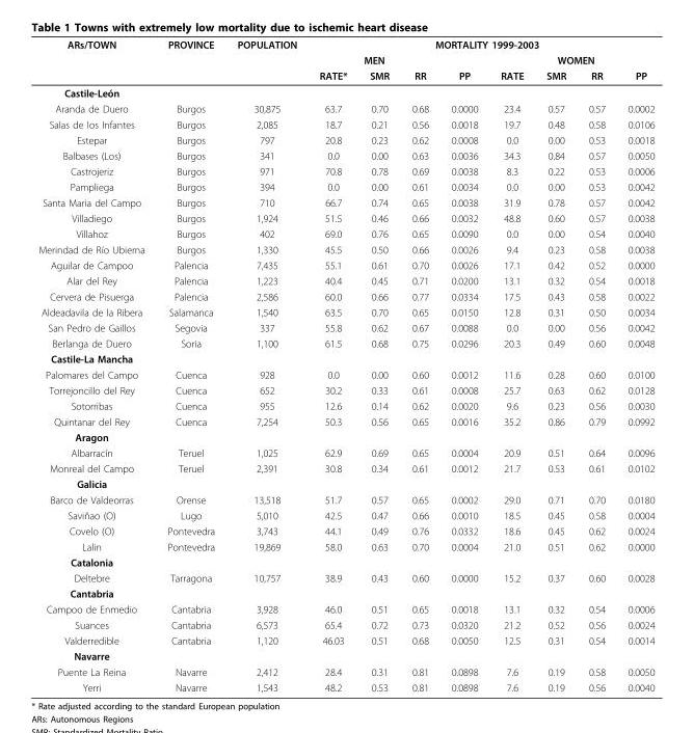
<table><thead><tr><td rowspan="3">ARs/TOWN</td><td rowspan="3">PROVINCE</td><td rowspan="3">POPULATION</td><td colspan="8">MORTALITY 1999-2003</td></tr><tr><td colspan="3">MEN</td><td rowspan="2">PP</td><td rowspan="2">RATE</td><td colspan="2">WOMEN</td><td rowspan="2">PP</td></tr><tr><td>RATE*</td><td>SMR</td><td>RR</td><td>SMR</td><td>RR</td></tr></thead><tbody><tr><td colspan="11">Castile-León</td></tr><tr><td>Aranda de Duero</td><td>Burgos</td><td>30,875</td><td>63.7</td><td>0.70</td><td>0.68</td><td>0.0000</td><td>23.4</td><td>0.57</td><td>0.57</td><td>0.0002</td></tr><tr><td>Salas de los Infantes</td><td>Burgos</td><td>2,085</td><td>18.7</td><td>0.21</td><td>0.56</td><td>0.0018</td><td>19.7</td><td>0.48</td><td>0.58</td><td>0.0106</td></tr><tr><td>Estepar</td><td>Burgos</td><td>797</td><td>20.8</td><td>0.23</td><td>0.62</td><td>0.0008</td><td>0.0</td><td>0.00</td><td>0.53</td><td>0.0018</td></tr><tr><td>Balbases (Los)</td><td>Burgos</td><td>341</td><td>0.0</td><td>0.00</td><td>0.63</td><td>0.0036</td><td>34.3</td><td>0.84</td><td>0.57</td><td>0.0050</td></tr><tr><td>Castrojeriz</td><td>Burgos</td><td>971</td><td>70.8</td><td>0.78</td><td>0.69</td><td>0.0038</td><td>8.3</td><td>0.22</td><td>0.53</td><td>0.0006</td></tr><tr><td>Pampliega</td><td>Burgos</td><td>394</td><td>0.0</td><td>0.00</td><td>0.61</td><td>0.0034</td><td>0.0</td><td>0.00</td><td>0.53</td><td>0.0042</td></tr><tr><td>Santa Maria del Campo</td><td>Burgos</td><td>710</td><td>66.7</td><td>0.74</td><td>0.65</td><td>0.0038</td><td>31.9</td><td>0.78</td><td>0.57</td><td>0.0042</td></tr><tr><td>Villadiego</td><td>Burgos</td><td>1,924</td><td>51.5</td><td>0.46</td><td>0.66</td><td>0.0032</td><td>48.8</td><td>0.60</td><td>0.57</td><td>0.0038</td></tr><tr><td>Villahoz</td><td>Burgos</td><td>402</td><td>69.0</td><td>0.76</td><td>0.65</td><td>0.0090</td><td>0.0</td><td>0.00</td><td>0.54</td><td>0.0040</td></tr><tr><td>Merindad de Río Ubierna</td><td>Burgos</td><td>1,330</td><td>45.5</td><td>0.50</td><td>0.66</td><td>0.0026</td><td>9.4</td><td>0.23</td><td>0.58</td><td>0.0038</td></tr><tr><td>Aguilar de Campoo</td><td>Palencia</td><td>7,435</td><td>55.1</td><td>0.61</td><td>0.70</td><td>0.0026</td><td>17.1</td><td>0.42</td><td>0.52</td><td>0.0000</td></tr><tr><td>Alar del Rey</td><td>Palencia</td><td>1,223</td><td>40.4</td><td>0.45</td><td>0.71</td><td>0.0200</td><td>13.1</td><td>0.32</td><td>0.54</td><td>0.0018</td></tr><tr><td>Cervera de Pisuerga</td><td>Palencia</td><td>2,586</td><td>60.0</td><td>0.66</td><td>0.77</td><td>0.0334</td><td>17.5</td><td>0.43</td><td>0.58</td><td>0.0022</td></tr><tr><td>Aldeadavila de la Ribera</td><td>Salamanca</td><td>1,540</td><td>63.5</td><td>0.70</td><td>0.65</td><td>0.0150</td><td>12.8</td><td>0.31</td><td>0.50</td><td>0.0034</td></tr><tr><td>San Pedro de Gaillos</td><td>Segovia</td><td>337</td><td>55.8</td><td>0.62</td><td>0.67</td><td>0.0088</td><td>0.0</td><td>0.00</td><td>0.56</td><td>0.0042</td></tr><tr><td>Berlanga de Duero</td><td>Soria</td><td>1,100</td><td>61.5</td><td>0.68</td><td>0.75</td><td>0.0296</td><td>20.3</td><td>0.49</td><td>0.60</td><td>0.0048</td></tr><tr><td colspan="11">Castile-La Mancha</td></tr><tr><td>Palomares del Campo</td><td>Cuenca</td><td>928</td><td>0.0</td><td>0.00</td><td>0.60</td><td>0.0012</td><td>11.6</td><td>0.28</td><td>0.60</td><td>0.0100</td></tr><tr><td>Torrejoncillo del Rey</td><td>Cuenca</td><td>652</td><td>30.2</td><td>0.33</td><td>0.61</td><td>0.0008</td><td>25.7</td><td>0.63</td><td>0.62</td><td>0.0128</td></tr><tr><td>Sotorribas</td><td>Cuenca</td><td>955</td><td>12.6</td><td>0.14</td><td>0.62</td><td>0.0020</td><td>9.6</td><td>0.23</td><td>0.56</td><td>0.0030</td></tr><tr><td>Quintanar del Rey</td><td>Cuenca</td><td>7,254</td><td>50.3</td><td>0.56</td><td>0.65</td><td>0.0016</td><td>35.2</td><td>0.86</td><td>0.79</td><td>0.0992</td></tr><tr><td colspan="11">Aragon</td></tr><tr><td>Albarracín</td><td>Teruel</td><td>1,025</td><td>62.9</td><td>0.69</td><td>0.65</td><td>0.0004</td><td>20.9</td><td>0.51</td><td>0.64</td><td>0.0096</td></tr><tr><td>Monreal del Campo</td><td>Teruel</td><td>2,391</td><td>30.8</td><td>0.34</td><td>0.61</td><td>0.0012</td><td>21.7</td><td>0.53</td><td>0.61</td><td>0.0102</td></tr><tr><td colspan="11">Galicia</td></tr><tr><td>Barco de Valdeorras</td><td>Orense</td><td>13,518</td><td>51.7</td><td>0.57</td><td>0.65</td><td>0.0002</td><td>29.0</td><td>0.71</td><td>0.70</td><td>0.0180</td></tr><tr><td>Saviñao (O)</td><td>Lugo</td><td>5,010</td><td>42.5</td><td>0.47</td><td>0.66</td><td>0.0010</td><td>18.5</td><td>0.45</td><td>0.58</td><td>0.0004</td></tr><tr><td>Covelo (O)</td><td>Pontevedra</td><td>3,743</td><td>44.1</td><td>0.49</td><td>0.76</td><td>0.0332</td><td>18.6</td><td>0.45</td><td>0.62</td><td>0.0024</td></tr><tr><td>Lalin</td><td>Pontevedra</td><td>19,869</td><td>58.0</td><td>0.63</td><td>0.70</td><td>0.0004</td><td>21.0</td><td>0.51</td><td>0.62</td><td>0.0000</td></tr><tr><td colspan="11">Catalonia</td></tr><tr><td>Deltebre</td><td>Tarragona</td><td>10,757</td><td>38.9</td><td>0.43</td><td>0.60</td><td>0.0000</td><td>15.2</td><td>0.37</td><td>0.60</td><td>0.0028</td></tr><tr><td colspan="11">Cantabria</td></tr><tr><td>Campoo de Enmedio</td><td>Cantabria</td><td>3,928</td><td>46.0</td><td>0.51</td><td>0.65</td><td>0.0018</td><td>13.1</td><td>0.32</td><td>0.54</td><td>0.0006</td></tr><tr><td>Suances</td><td>Cantabria</td><td>6,573</td><td>65.4</td><td>0.72</td><td>0.73</td><td>0.0320</td><td>21.2</td><td>0.52</td><td>0.56</td><td>0.0024</td></tr><tr><td>Valderredible</td><td>Cantabria</td><td>1,120</td><td>46.03</td><td>0.51</td><td>0.68</td><td>0.0050</td><td>12.5</td><td>0.31</td><td>0.54</td><td>0.0014</td></tr><tr><td colspan="11">Navarre</td></tr><tr><td>Puente La Reina</td><td>Navarre</td><td>2,412</td><td>28.4</td><td>0.31</td><td>0.81</td><td>0.0898</td><td>7.6</td><td>0.19</td><td>0.58</td><td>0.0050</td></tr><tr><td>Yerri</td><td>Navarre</td><td>1,543</td><td>48.2</td><td>0.53</td><td>0.81</td><td>0.0898</td><td>7.6</td><td>0.19</td><td>0.56</td><td>0.0040</td></tr></tbody></table>